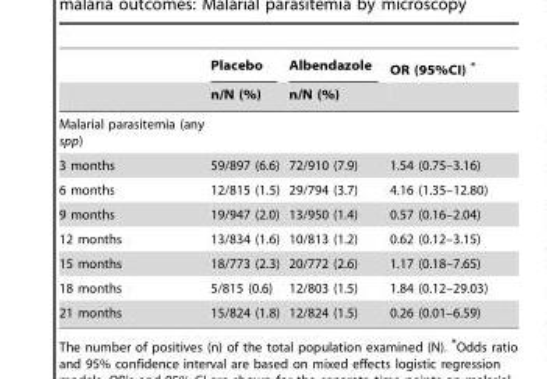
<table><thead><tr><td rowspan="2"></td><td rowspan="2">Placebo n/N (%)</td><td rowspan="2">Albendazole n/N (%)</td><td rowspan="2">OR (95%CI) *</td></tr><tr></tr></thead><tbody><tr><td colspan="4">Malarial parasitemia (any spp)</td></tr><tr><td>3 months</td><td>59/897 (6.6)</td><td>72/910 (7.9)</td><td>1.54 (0.75–3.16)</td></tr><tr><td>6 months</td><td>12/815 (1.5)</td><td>29/794 (3.7)</td><td>4.16 (1.35–12.80)</td></tr><tr><td>9 months</td><td>19/947 (2.0)</td><td>13/950 (1.4)</td><td>0.57 (0.16–2.04)</td></tr><tr><td>12 months</td><td>13/834 (1.6)</td><td>10/813 (1.2)</td><td>0.62 (0.12–3.15)</td></tr><tr><td>15 months</td><td>18/773 (2.3)</td><td>20/772 (2.6)</td><td>1.17 (0.18–7.65)</td></tr><tr><td>18 months</td><td>5/815 (0.6)</td><td>12/803 (1.5)</td><td>1.84 (0.12–29.03)</td></tr><tr><td>21 months</td><td>15/824 (1.8)</td><td>12/824 (1.5)</td><td>0.26 (0.01–6.59)</td></tr></tbody></table>